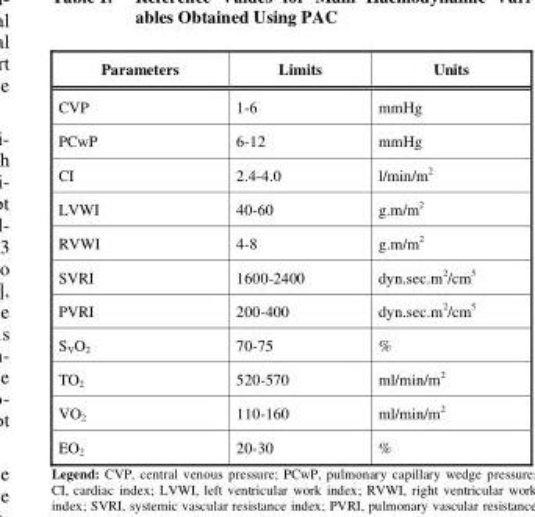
<table><thead><tr><td>Parameters</td><td>Limits</td><td>Units</td></tr></thead><tbody><tr><td>CVP</td><td>1-6</td><td>mmHg</td></tr><tr><td>PCwP</td><td>6-12</td><td>mmHg</td></tr><tr><td>CI</td><td>2.4-4.0</td><td>l/min/m<sup>2</sup></td></tr><tr><td>LVWI</td><td>40-60</td><td>g.m/m<sup>2</sup></td></tr><tr><td>RVWI</td><td>4-8</td><td>g.m/m<sup>2</sup></td></tr><tr><td>SVRI</td><td>1600-2400</td><td>dyn.sec.m<sup>2</sup>/cm<sup>5</sup></td></tr><tr><td>PVRI</td><td>200-400</td><td>dyn.sec.m<sup>2</sup>/cm<sup>5</sup></td></tr><tr><td>S<sub>V</sub>O<sub>2</sub></td><td>70-75</td><td>%</td></tr><tr><td>TO<sub>2</sub></td><td>520-570</td><td>ml/min/m<sup>2</sup></td></tr><tr><td>VO<sub>2</sub></td><td>110-160</td><td>ml/min/m<sup>2</sup></td></tr><tr><td>EO<sub>2</sub></td><td>20-30</td><td>%</td></tr></tbody></table>